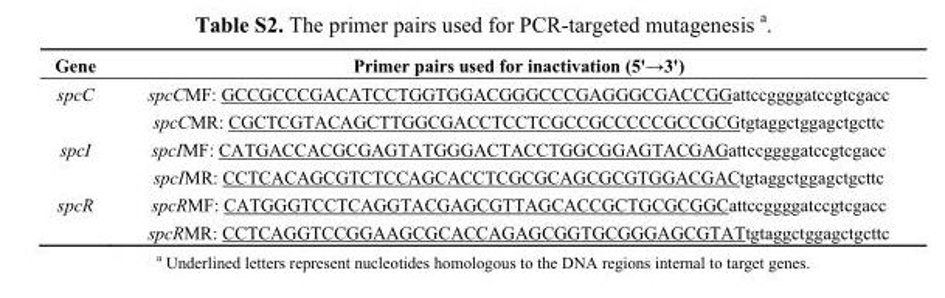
<table><thead><tr><td>Gene</td><td>Primer pairs used for inactivation (5&#x27;→3&#x27;)</td></tr></thead><tbody><tr><td rowspan="2">spcC</td><td>spcCMF: GCCGCCCGACATCCTGGTGGACGGGCCCGAGGGCGACCGGattccggggatccgtcgacc</td></tr><tr><td>spcCMR: CGCTCGTACAGCTTGGCGACCTCCTCGCCGCCCCCGCCGCGtgtaggctggagctgcttc</td></tr><tr><td rowspan="2">spcI</td><td>spcIMF: CATGACCACGCGAGTATGGGACTACCTGGCGGAGTACGAGattccggggatccgtcgacc</td></tr><tr><td>spcIMR: CCTCACAGCGTCTCCAGCACCTCGCGCAGCGCGTGGACGACtgtaggctggagctgcttc</td></tr><tr><td rowspan="2">spcR</td><td>spcRMF: CATGGGTCCTCAGGTACGAGCGTTAGCACCGCTGCGCGGCattccggggatccgtcgacc</td></tr><tr><td>spcRMR: CCTCAGGTCCGGAAGCGCACCAGAGCGGTGCGGGAGCGTATtgtaggctggagctgcttc</td></tr></tbody></table>